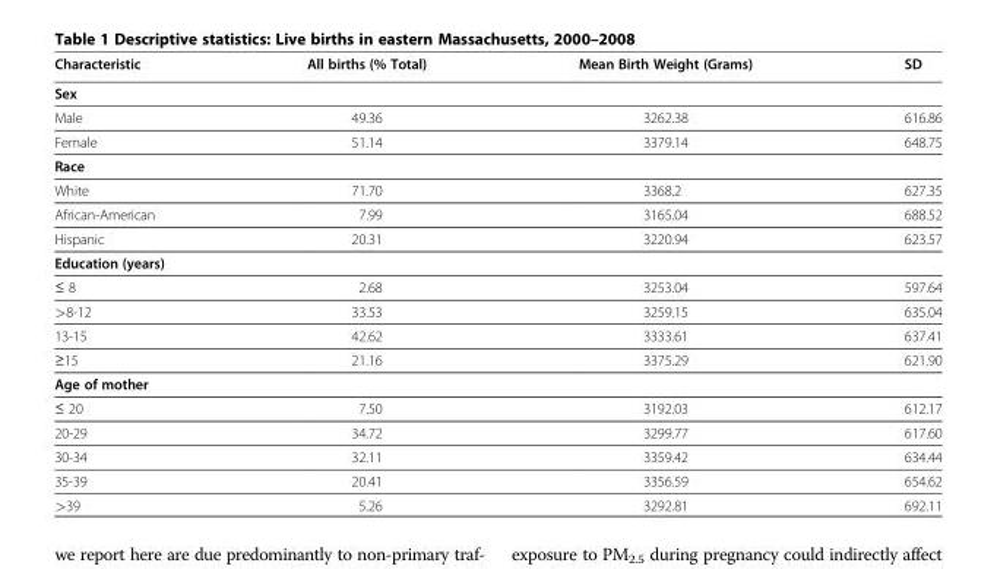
<table><thead><tr><td>Characteristic</td><td>All births (% Total)</td><td>Mean Birth Weight (Grams)</td><td>SD</td></tr></thead><tbody><tr><td colspan="4">Sex</td></tr><tr><td>Male</td><td>49.36</td><td>3262.38</td><td>616.86</td></tr><tr><td>Female</td><td>51.14</td><td>3379.14</td><td>648.75</td></tr><tr><td colspan="4">Race</td></tr><tr><td>White</td><td>71.70</td><td>3368.2</td><td>627.35</td></tr><tr><td>African-American</td><td>7.99</td><td>3165.04</td><td>688.52</td></tr><tr><td>Hispanic</td><td>20.31</td><td>3220.94</td><td>623.57</td></tr><tr><td colspan="4">Education (years)</td></tr><tr><td>≤ 8</td><td>2.68</td><td>3253.04</td><td>597.64</td></tr><tr><td>&gt;8-12</td><td>33.53</td><td>3259.15</td><td>635.04</td></tr><tr><td>13-15</td><td>42.62</td><td>3333.61</td><td>637.41</td></tr><tr><td>≥15</td><td>21.16</td><td>3375.29</td><td>621.90</td></tr><tr><td colspan="4">Age of mother</td></tr><tr><td>≤ 20</td><td>7.50</td><td>3192.03</td><td>612.17</td></tr><tr><td>20-29</td><td>34.72</td><td>3299.77</td><td>617.60</td></tr><tr><td>30-34</td><td>32.11</td><td>3359.42</td><td>634.44</td></tr><tr><td>35-39</td><td>20.41</td><td>3356.59</td><td>654.62</td></tr><tr><td>&gt;39</td><td>5.26</td><td>3292.81</td><td>692.11</td></tr></tbody></table>